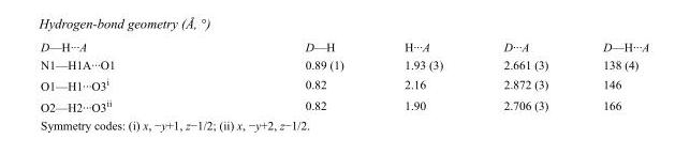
<table><tbody><tr><td>D—H···A</td><td>D—H</td><td>H···A</td><td>D···A</td><td>D—H···A</td></tr><tr><td>N1—H1A···O1</td><td>0.89 (1)</td><td>1.93 (3)</td><td>2.661 (3)</td><td>138 (4)</td></tr><tr><td>O1—H1···O3<sup>i</sup></td><td>0.82</td><td>2.16</td><td>2.872 (3)</td><td>146</td></tr><tr><td>O2—H2···O3<sup>ii</sup></td><td>0.82</td><td>1.90</td><td>2.706 (3)</td><td>166</td></tr></tbody></table>